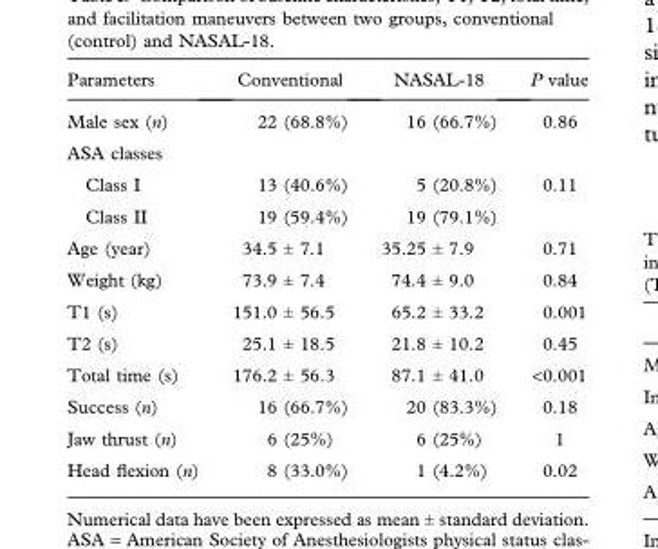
<table><thead><tr><td>Parameters</td><td>Conventional</td><td>NASAL-18</td><td>P value</td></tr></thead><tbody><tr><td>Male sex (n)</td><td>22 (68.8%)</td><td>16 (66.7%)</td><td>0.86</td></tr><tr><td colspan="4">ASA classes</td></tr><tr><td>Class I</td><td>13 (40.6%)</td><td>5 (20.8%)</td><td rowspan="2">0.11</td></tr><tr><td>Class II</td><td>19 (59.4%)</td><td>19 (79.1%)</td></tr><tr><td>Age (year)</td><td>34.5 ± 7.1</td><td>35.25 ± 7.9</td><td>0.71</td></tr><tr><td>Weight (kg)</td><td>73.9 ± 7.4</td><td>74.4 ± 9.0</td><td>0.84</td></tr><tr><td>T1 (s)</td><td>151.0 ± 56.5</td><td>65.2 ± 33.2</td><td>0.001</td></tr><tr><td>T2 (s)</td><td>25.1 ± 18.5</td><td>21.8 ± 10.2</td><td>0.45</td></tr><tr><td>Total time (s)</td><td>176.2 ± 56.3</td><td>87.1 ± 41.0</td><td>&lt;0.001</td></tr><tr><td>Success (n)</td><td>16 (66.7%)</td><td>20 (83.3%)</td><td>0.18</td></tr><tr><td>Jaw thrust (n)</td><td>6 (25%)</td><td>6 (25%)</td><td>1</td></tr><tr><td>Head flexion (n)</td><td>8 (33.0%)</td><td>1 (4.2%)</td><td>0.02</td></tr></tbody></table>